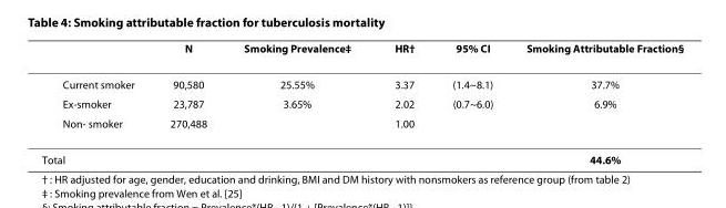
<table><thead><tr><td></td><td>N</td><td>Smoking Prevalence‡</td><td>HR†</td><td>95% CI</td><td>Smoking Attributable Fraction§</td></tr></thead><tbody><tr><td>Current smoker</td><td>90,580</td><td>25.55%</td><td>3.37</td><td>(1.4~8.1)</td><td>37.7%</td></tr><tr><td>Ex-smoker</td><td>23,787</td><td>3.65%</td><td>2.02</td><td>(0.7~6.0)</td><td>6.9%</td></tr><tr><td>Non- smoker</td><td>270,488</td><td></td><td>1.00</td><td></td><td></td></tr><tr><td>Total</td><td></td><td></td><td></td><td></td><td>44.6%</td></tr></tbody></table>